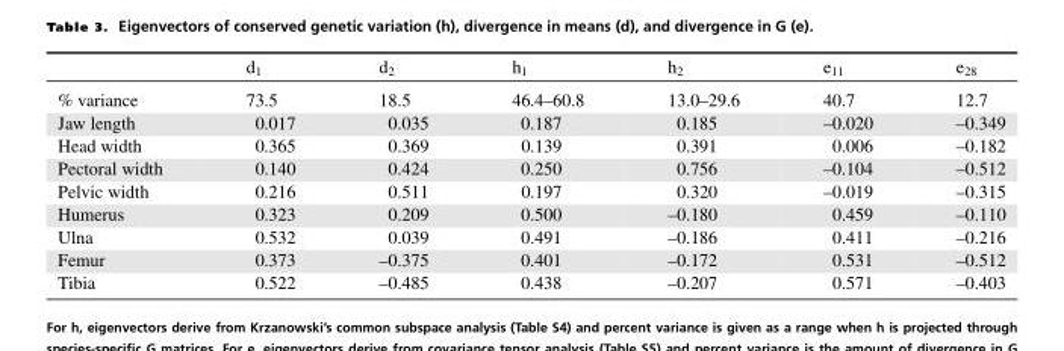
<table><thead><tr><td></td><td>d<sub>1</sub></td><td>d<sub>2</sub></td><td>h<sub>1</sub></td><td>h<sub>2</sub></td><td>e<sub>11</sub></td><td>e<sub>28</sub></td></tr></thead><tbody><tr><td>% variance</td><td>73.5</td><td>18.5</td><td>46.4–60.8</td><td>13.0–29.6</td><td>40.7</td><td>12.7</td></tr><tr><td>Jaw length</td><td>0.017</td><td>0.035</td><td>0.187</td><td>0.185</td><td>–0.020</td><td>–0.349</td></tr><tr><td>Head width</td><td>0.365</td><td>0.369</td><td>0.139</td><td>0.391</td><td>0.006</td><td>–0.182</td></tr><tr><td>Pectoral width</td><td>0.140</td><td>0.424</td><td>0.250</td><td>0.756</td><td>–0.104</td><td>–0.512</td></tr><tr><td>Pelvic width</td><td>0.216</td><td>0.511</td><td>0.197</td><td>0.320</td><td>–0.019</td><td>–0.315</td></tr><tr><td>Humerus</td><td>0.323</td><td>0.209</td><td>0.500</td><td>–0.180</td><td>0.459</td><td>–0.110</td></tr><tr><td>Ulna</td><td>0.532</td><td>0.039</td><td>0.491</td><td>–0.186</td><td>0.411</td><td>–0.216</td></tr><tr><td>Femur</td><td>0.373</td><td>–0.375</td><td>0.401</td><td>–0.172</td><td>0.531</td><td>–0.512</td></tr><tr><td>Tibia</td><td>0.522</td><td>–0.485</td><td>0.438</td><td>–0.207</td><td>0.571</td><td>–0.403</td></tr></tbody></table>